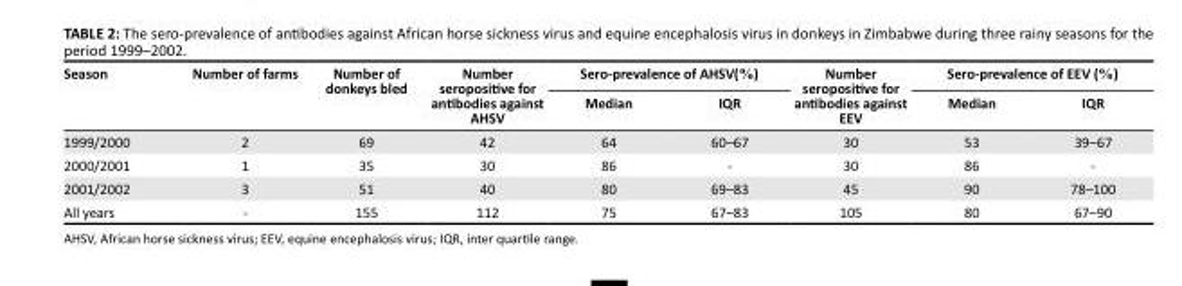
<table><thead><tr><td rowspan="2">Season</td><td rowspan="2">Number of farms</td><td rowspan="2">Number of donkeys bled</td><td rowspan="2">Number seropositive for antibodies against AHSV</td><td colspan="2">Sero-prevalence of AHSV(%)</td><td rowspan="2">Number seropositive for antibodies against EEV</td><td colspan="2">Sero-prevalence of EEV (%)</td></tr><tr><td>Median</td><td>IQR</td><td>Median</td><td>IQR</td></tr></thead><tbody><tr><td>1999/2000</td><td>2</td><td>69</td><td>42</td><td>64</td><td>60–67</td><td>30</td><td>53</td><td>39–67</td></tr><tr><td>2000/2001</td><td>1</td><td>35</td><td>30</td><td>86</td><td>-</td><td>30</td><td>86</td><td>-</td></tr><tr><td>2001/2002</td><td>3</td><td>51</td><td>40</td><td>80</td><td>69–83</td><td>45</td><td>90</td><td>78–100</td></tr><tr><td>All years</td><td>-</td><td>155</td><td>112</td><td>75</td><td>67–83</td><td>105</td><td>80</td><td>67–90</td></tr></tbody></table>